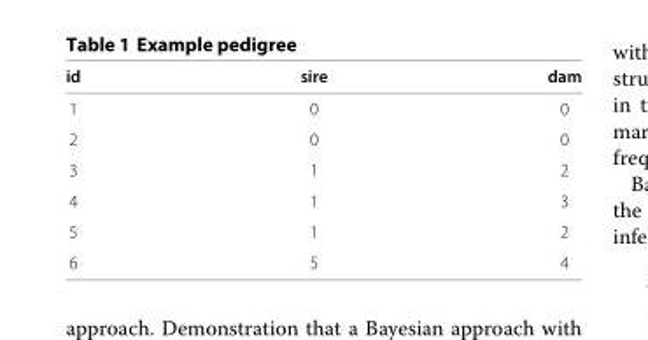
<table><thead><tr><td>id</td><td>sire</td><td>dam</td></tr></thead><tbody><tr><td>1</td><td>0</td><td>0</td></tr><tr><td>2</td><td>0</td><td>0</td></tr><tr><td>3</td><td>1</td><td>2</td></tr><tr><td>4</td><td>1</td><td>3</td></tr><tr><td>5</td><td>1</td><td>2</td></tr><tr><td>6</td><td>5</td><td>4</td></tr></tbody></table>